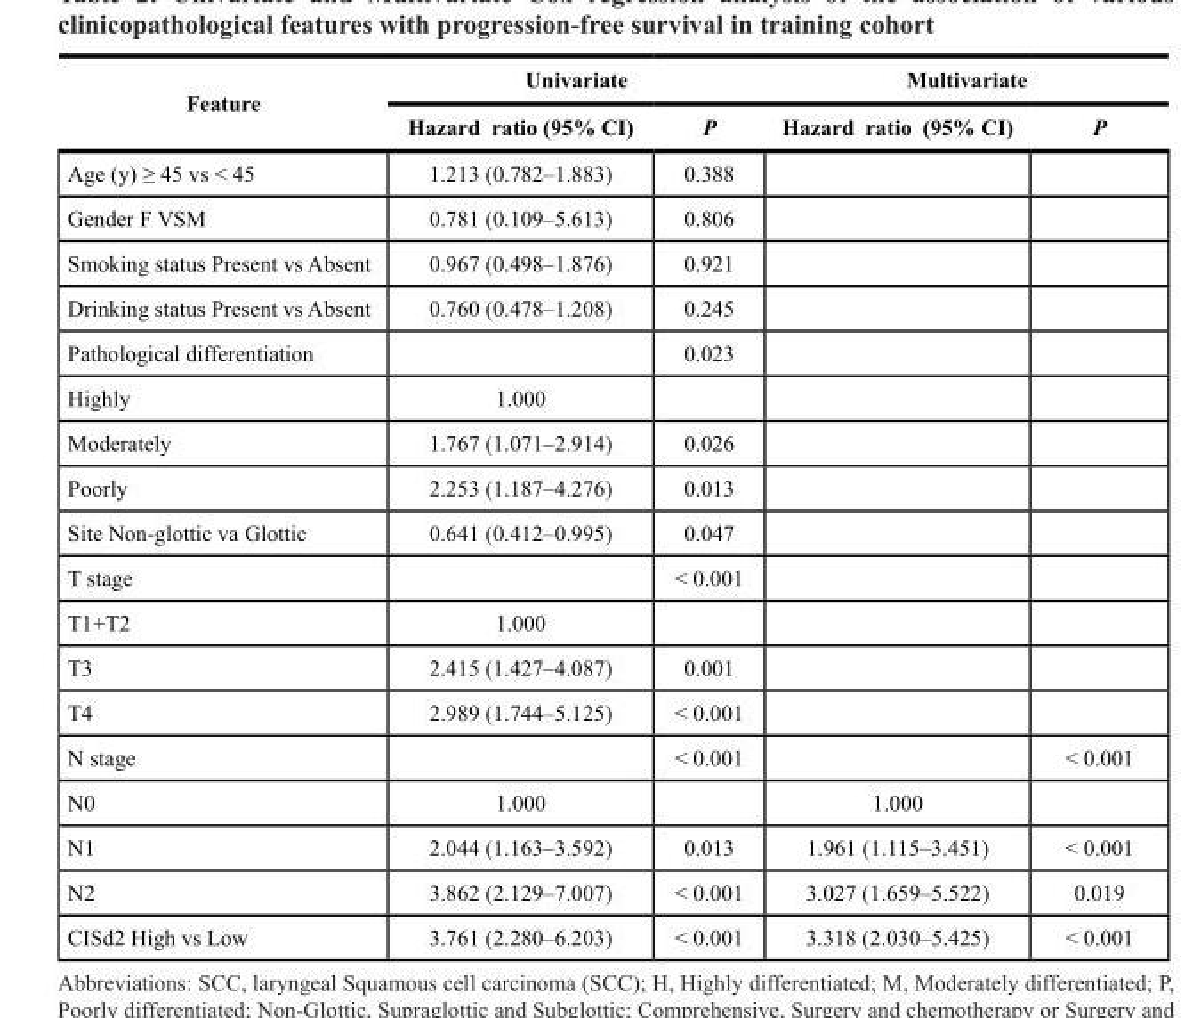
<table><thead><tr><td rowspan="2">Feature</td><td colspan="2">Univariate</td><td colspan="2">Multivariate</td></tr><tr><td>Hazard ratio (95% CI)</td><td>P</td><td>Hazard ratio (95% CI)</td><td>P</td></tr></thead><tbody><tr><td>Age (y) ≥ 45 vs &lt; 45</td><td>1.213 (0.782–1.883)</td><td>0.388</td><td></td><td></td></tr><tr><td>Gender F VSM</td><td>0.781 (0.109–5.613)</td><td>0.806</td><td></td><td></td></tr><tr><td>Smoking status Present vs Absent</td><td>0.967 (0.498–1.876)</td><td>0.921</td><td></td><td></td></tr><tr><td>Drinking status Present vs Absent</td><td>0.760 (0.478–1.208)</td><td>0.245</td><td></td><td></td></tr><tr><td>Pathological differentiation</td><td></td><td>0.023</td><td></td><td></td></tr><tr><td>Highly</td><td>1.000</td><td></td><td></td><td></td></tr><tr><td>Moderately</td><td>1.767 (1.071–2.914)</td><td>0.026</td><td></td><td></td></tr><tr><td>Poorly</td><td>2.253 (1.187–4.276)</td><td>0.013</td><td></td><td></td></tr><tr><td>Site Non-glottic va Glottic</td><td>0.641 (0.412–0.995)</td><td>0.047</td><td></td><td></td></tr><tr><td>T stage</td><td></td><td>&lt; 0.001</td><td></td><td></td></tr><tr><td>T1+T2</td><td>1.000</td><td></td><td></td><td></td></tr><tr><td>T3</td><td>2.415 (1.427–4.087)</td><td>0.001</td><td></td><td></td></tr><tr><td>T4</td><td>2.989 (1.744–5.125)</td><td>&lt; 0.001</td><td></td><td></td></tr><tr><td>N stage</td><td></td><td>&lt; 0.001</td><td></td><td>&lt; 0.001</td></tr><tr><td>N0</td><td>1.000</td><td></td><td>1.000</td><td></td></tr><tr><td>N1</td><td>2.044 (1.163–3.592)</td><td>0.013</td><td>1.961 (1.115–3.451)</td><td>&lt; 0.001</td></tr><tr><td>N2</td><td>3.862 (2.129–7.007)</td><td>&lt; 0.001</td><td>3.027 (1.659–5.522)</td><td>0.019</td></tr><tr><td>CISd2 High vs Low</td><td>3.761 (2.280–6.203)</td><td>&lt; 0.001</td><td>3.318 (2.030–5.425)</td><td>&lt; 0.001</td></tr></tbody></table>